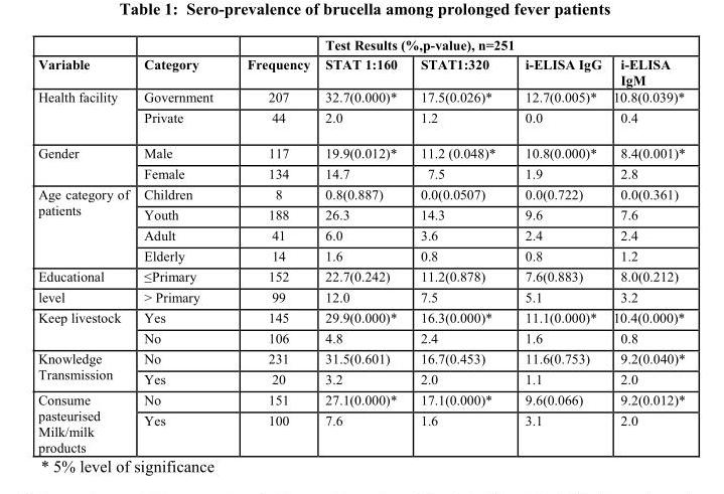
<table><thead><tr><td rowspan="2">Variable</td><td rowspan="2">Category</td><td rowspan="2">Frequency</td><td colspan="4">Test Results (%,p-value), n=251</td></tr><tr><td>STAT 1:160</td><td>STAT1:320</td><td>i-ELISA IgG</td><td>i-ELISA IgM</td></tr></thead><tbody><tr><td rowspan="2">Health facility</td><td>Government</td><td>207</td><td>32.7(0.000)*</td><td>17.5(0.026)*</td><td>12.7(0.005)*</td><td>10.8(0.039)*</td></tr><tr><td>Private</td><td>44</td><td>2.0</td><td>1.2</td><td>0.0</td><td>0.4</td></tr><tr><td rowspan="2">Gender</td><td>Male</td><td>117</td><td>19.9(0.012)*</td><td>11.2 (0.048)*</td><td>10.8(0.000)*</td><td>8.4(0.001)*</td></tr><tr><td>Female</td><td>134</td><td>14.7</td><td>7.5</td><td>1.9</td><td>2.8</td></tr><tr><td rowspan="4">Age category of patients</td><td>Children</td><td>8</td><td>0.8(0.887)</td><td>0.0(0.0507)</td><td>0.0(0.722)</td><td>0.0(0.361)</td></tr><tr><td>Youth</td><td>188</td><td>26.3</td><td>14.3</td><td>9.6</td><td>7.6</td></tr><tr><td>Adult</td><td>41</td><td>6.0</td><td>3.6</td><td>2.4</td><td>2.4</td></tr><tr><td>Elderly</td><td>14</td><td>1.6</td><td>0.8</td><td>0.8</td><td>1.2</td></tr><tr><td>Educational</td><td>≤Primary</td><td>152</td><td>22.7(0.242)</td><td>11.2(0.878)</td><td>7.6(0.883)</td><td>8.0(0.212)</td></tr><tr><td>level</td><td>&gt; Primary</td><td>99</td><td>12.0</td><td>7.5</td><td>5.1</td><td>3.2</td></tr><tr><td rowspan="2">Keep livestock</td><td>Yes</td><td>145</td><td>29.9(0.000)*</td><td>16.3(0.000)*</td><td>11.1(0.000)*</td><td>10.4(0.000)*</td></tr><tr><td>No</td><td>106</td><td>4.8</td><td>2.4</td><td>1.6</td><td>0.8</td></tr><tr><td rowspan="2">Knowledge Transmission</td><td>No</td><td>231</td><td>31.5(0.601)</td><td>16.7(0.453)</td><td>11.6(0.753)</td><td>9.2(0.040)*</td></tr><tr><td>Yes</td><td>20</td><td>3.2</td><td>2.0</td><td>1.1</td><td>2.0</td></tr><tr><td rowspan="2">Consume pasteurised Milk/milk products</td><td>No</td><td>151</td><td>27.1(0.000)*</td><td>17.1(0.000)*</td><td>9.6(0.066)</td><td>9.2(0.012)*</td></tr><tr><td>Yes</td><td>100</td><td>7.6</td><td>1.6</td><td>3.1</td><td>2.0</td></tr></tbody></table>